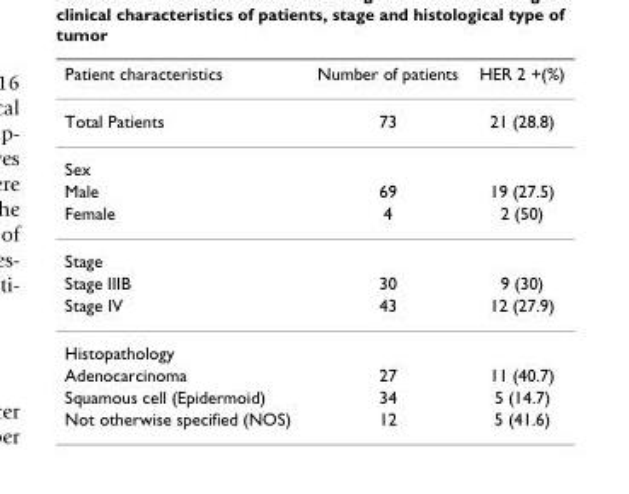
<table><thead><tr><td>Patient characteristics</td><td>Number of patients</td><td>HER 2 +(%)</td></tr></thead><tbody><tr><td>Total Patients</td><td>73</td><td>21 (28.8)</td></tr><tr><td colspan="3">Sex</td></tr><tr><td>Male</td><td>69</td><td>19 (27.5)</td></tr><tr><td>Female</td><td>4</td><td>2 (50)</td></tr><tr><td colspan="3">Stage</td></tr><tr><td>Stage IIIB</td><td>30</td><td>9 (30)</td></tr><tr><td>Stage IV</td><td>43</td><td>12 (27.9)</td></tr><tr><td colspan="3">Histopathology</td></tr><tr><td>Adenocarcinoma</td><td>27</td><td>11 (40.7)</td></tr><tr><td>Squamous cell (Epidermoid)</td><td>34</td><td>5 (14.7)</td></tr><tr><td>Not otherwise specified (NOS)</td><td>12</td><td>5 (41.6)</td></tr></tbody></table>